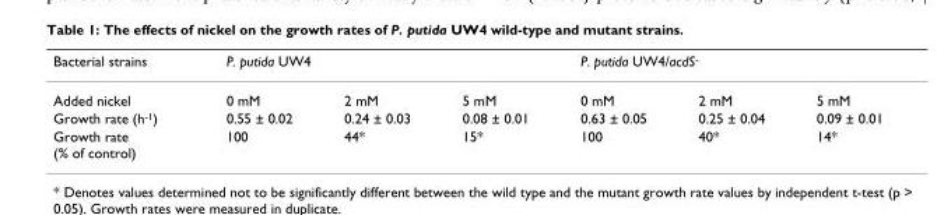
<table><thead><tr><td rowspan="2">Bacterial strains Added nickel</td><td colspan="3">P. putida UW4</td><td colspan="3">P. putida UW4/acdS<sup>-</sup></td></tr><tr><td>0 mM</td><td>2 mM</td><td>5 mM</td><td>0 mM</td><td>2 mM</td><td>5 mM</td></tr></thead><tbody><tr><td>Growth rate (h<sup>-1</sup>)</td><td>0.55 ± 0.02</td><td>0.24 ± 0.03</td><td>0.08 ± 0.01</td><td>0.63 ± 0.05</td><td>0.25 ± 0.04</td><td>0.09 ± 0.01</td></tr><tr><td>Growth rate (% of control)</td><td>100</td><td>44*</td><td>15*</td><td>100</td><td>40*</td><td>14*</td></tr></tbody></table>